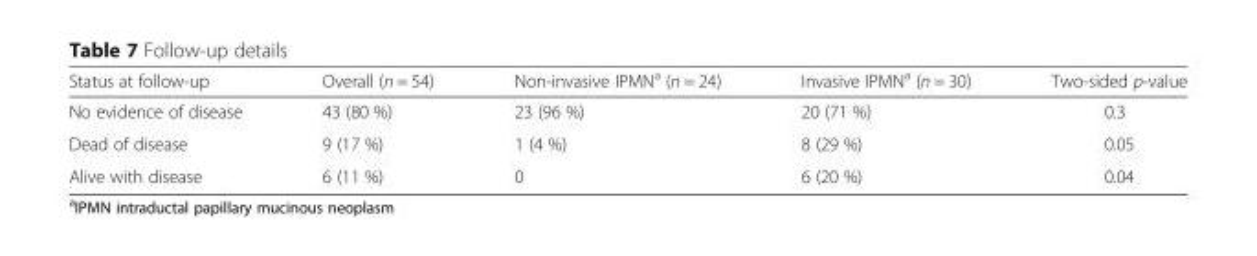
<table><thead><tr><td>Status at follow-up</td><td>Overall (n = 54)</td><td>Non-invasive IPMN<sup>a</sup> (n = 24)</td><td>Invasive IPMN<sup>a</sup> (n = 30)</td><td>Two-sided p-value</td></tr></thead><tbody><tr><td>No evidence of disease</td><td>43 (80 %)</td><td>23 (96 %)</td><td>20 (71 %)</td><td>0.3</td></tr><tr><td>Dead of disease</td><td>9 (17 %)</td><td>1 (4 %)</td><td>8 (29 %)</td><td>0.05</td></tr><tr><td>Alive with disease</td><td>6 (11 %)</td><td>0</td><td>6 (20 %)</td><td>0.04</td></tr></tbody></table>